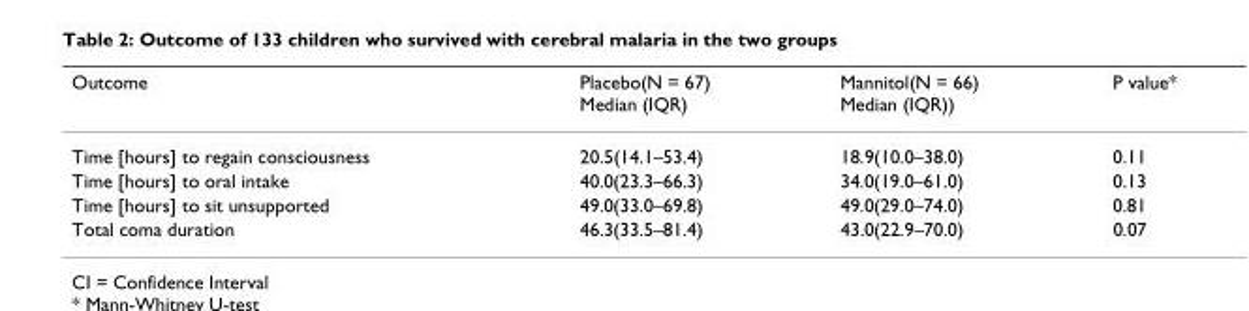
<table><thead><tr><td>Outcome</td><td>Placebo(N = 67) Median (IQR)</td><td>Mannitol(N = 66) Median (IQR))</td><td>P value*</td></tr></thead><tbody><tr><td>Time [hours] to regain consciousness</td><td>20.5(14.1–53.4)</td><td>18.9(10.0–38.0)</td><td>0.11</td></tr><tr><td>Time [hours] to oral intake</td><td>40.0(23.3–66.3)</td><td>34.0(19.0–61.0)</td><td>0.13</td></tr><tr><td>Time [hours] to sit unsupported</td><td>49.0(33.0–69.8)</td><td>49.0(29.0–74.0)</td><td>0.81</td></tr><tr><td>Total coma duration</td><td>46.3(33.5–81.4)</td><td>43.0(22.9–70.0)</td><td>0.07</td></tr></tbody></table>